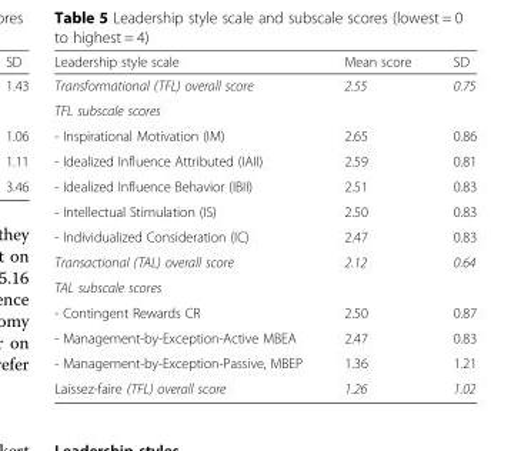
<table><thead><tr><td>Leadership style scale</td><td>Mean score</td><td>SD</td></tr></thead><tbody><tr><td>Transformational (TFL) overall score</td><td>2.55</td><td>0.75</td></tr><tr><td colspan="3">TFL subscale scores</td></tr><tr><td>- Inspirational Motivation (IM)</td><td>2.65</td><td>0.86</td></tr><tr><td>- Idealized Influence Attributed (IAII)</td><td>2.59</td><td>0.81</td></tr><tr><td>- Idealized Influence Behavior (IBII)</td><td>2.51</td><td>0.83</td></tr><tr><td>- Intellectual Stimulation (IS)</td><td>2.50</td><td>0.83</td></tr><tr><td>- Individualized Consideration (IC)</td><td>2.47</td><td>0.83</td></tr><tr><td>Transactional (TAL) overall score</td><td>2.12</td><td>0.64</td></tr><tr><td colspan="3">TAL subscale scores</td></tr><tr><td>- Contingent Rewards CR</td><td>2.50</td><td>0.87</td></tr><tr><td>- Management-by-Exception-Active MBEA</td><td>2.47</td><td>0.83</td></tr><tr><td>- Management-by-Exception-Passive, MBEP</td><td>1.36</td><td>1.21</td></tr><tr><td>Laissez-faire (TFL) overall score</td><td>1.26</td><td>1.02</td></tr></tbody></table>